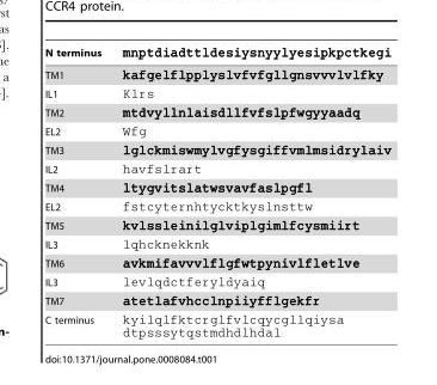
<table><thead><tr><td>N terminus</td><td>mnptdiadttldesiysnyylyesipkpctkegi</td></tr></thead><tbody><tr><td>TM1</td><td>kafgelflpplyslvfvfgllgnsvvvlvlfky</td></tr><tr><td>IL1</td><td>Klrs</td></tr><tr><td>TM2</td><td>mtdvyllnlaisdllfvfslpfwgyyaadq</td></tr><tr><td>EL2</td><td>Wfg</td></tr><tr><td>TM3</td><td>lglckmiswmylvgfysgiffvmlmsidrylaiv</td></tr><tr><td>IL2</td><td>havfslrart</td></tr><tr><td>TM4</td><td>ltygvitslatwsvavfaslpgfl</td></tr><tr><td>EL2</td><td>fstcyternhtycktkyslnsttw</td></tr><tr><td>TM5</td><td>kvlssleinilglviplgimlfcysmiirt</td></tr><tr><td>IL3</td><td>lqhcknekknk</td></tr><tr><td>TM6</td><td>avkmifavvvlflgfwtpynivlfletlve</td></tr><tr><td>IL3</td><td>levlqdctferyldyaiq</td></tr><tr><td>TM7</td><td>atetlafvhcclnpiiyfflgekfr</td></tr><tr><td>C terminus</td><td>kyilqlfktcrglfvlcqycgllqiysa dtpsssytqstmdhdlhdal</td></tr></tbody></table>